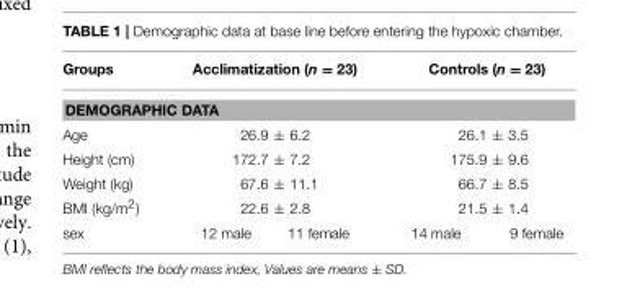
<table><thead><tr><td>Groups</td><td>Acclimatization (n = 23)</td><td>Controls (n = 23)</td></tr></thead><tbody><tr><td colspan="3">DEMOGRAPHIC DATA</td></tr><tr><td>Age</td><td>26.9 ± 6.2</td><td>26.1 ± 3.5</td></tr><tr><td>Height (cm)</td><td>172.7 ± 7.2</td><td>175.9 ± 9.6</td></tr><tr><td>Weight (kg)</td><td>67.6 ± 11.1</td><td>66.7 ± 8.5</td></tr><tr><td>BMI (kg/m<sup>2</sup>)</td><td>22.6 ± 2.8</td><td>21.5 ± 1.4</td></tr><tr><td>sex</td><td>12 male 11 female</td><td>14 male 9 female</td></tr></tbody></table>